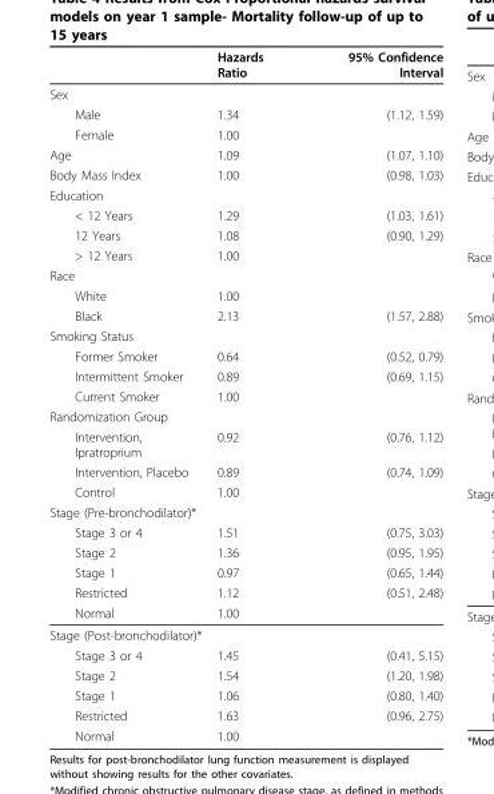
<table><thead><tr><td></td><td>Hazards Ratio</td><td>95% Confidence Interval</td></tr></thead><tbody><tr><td colspan="3">Sex</td></tr><tr><td>Male</td><td>1.34</td><td>(1.12, 1.59)</td></tr><tr><td>Female</td><td>1.00</td><td></td></tr><tr><td>Age</td><td>1.09</td><td>(1.07, 1.10)</td></tr><tr><td>Body Mass Index</td><td>1.00</td><td>(0.98, 1.03)</td></tr><tr><td colspan="3">Education</td></tr><tr><td>&lt; 12 Years</td><td>1.29</td><td>(1.03, 1.61)</td></tr><tr><td>12 Years</td><td>1.08</td><td>(0.90, 1.29)</td></tr><tr><td>&gt; 12 Years</td><td>1.00</td><td></td></tr><tr><td colspan="3">Race</td></tr><tr><td>White</td><td>1.00</td><td></td></tr><tr><td>Black</td><td>2.13</td><td>(1.57, 2.88)</td></tr><tr><td colspan="3">Smoking Status</td></tr><tr><td>Former Smoker</td><td>0.64</td><td>(0.52, 0.79)</td></tr><tr><td>Intermittent Smoker</td><td>0.89</td><td>(0.69, 1.15)</td></tr><tr><td>Current Smoker</td><td>1.00</td><td></td></tr><tr><td colspan="3">Randomization Group</td></tr><tr><td>Intervention, Ipratroprium</td><td>0.92</td><td>(0.76, 1.12)</td></tr><tr><td>Intervention, Placebo</td><td>0.89</td><td>(0.74, 1.09)</td></tr><tr><td>Control</td><td>1.00</td><td></td></tr><tr><td colspan="3">Stage (Pre-bronchodilator)*</td></tr><tr><td>Stage 3 or 4</td><td>1.51</td><td>(0.75, 3.03)</td></tr><tr><td>Stage 2</td><td>1.36</td><td>(0.95, 1.95)</td></tr><tr><td>Stage 1</td><td>0.97</td><td>(0.65, 1.44)</td></tr><tr><td>Restricted</td><td>1.12</td><td>(0.51, 2.48)</td></tr><tr><td>Normal</td><td>1.00</td><td></td></tr><tr><td colspan="3">Stage (Post-bronchodilator)*</td></tr><tr><td>Stage 3 or 4</td><td>1.45</td><td>(0.41, 5.15)</td></tr><tr><td>Stage 2</td><td>1.54</td><td>(1.20, 1.98)</td></tr><tr><td>Stage 1</td><td>1.06</td><td>(0.80, 1.40)</td></tr><tr><td>Restricted</td><td>1.63</td><td>(0.96, 2.75)</td></tr><tr><td>Normal</td><td>1.00</td><td></td></tr></tbody></table>